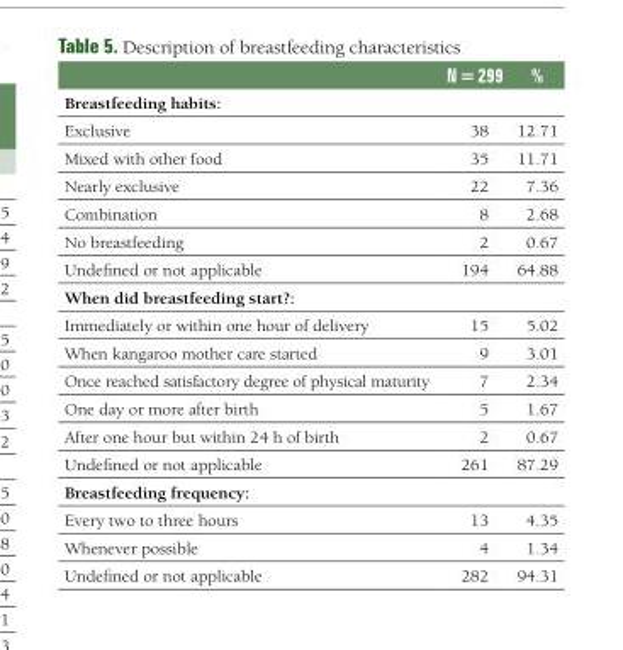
<table><thead><tr><td></td><td>N = 299</td><td>%</td></tr></thead><tbody><tr><td colspan="3">Breastfeeding habits:</td></tr><tr><td>Exclusive</td><td>38</td><td>12.71</td></tr><tr><td>Mixed with other food</td><td>35</td><td>11.71</td></tr><tr><td>Nearly exclusive</td><td>22</td><td>7.36</td></tr><tr><td>Combination</td><td>8</td><td>2.68</td></tr><tr><td>No breastfeeding</td><td>2</td><td>0.67</td></tr><tr><td>Undefined or not applicable</td><td>194</td><td>64.88</td></tr><tr><td colspan="3">When did breastfeeding start?:</td></tr><tr><td>Immediately or within one hour of delivery</td><td>15</td><td>5.02</td></tr><tr><td>When kangaroo mother care started</td><td>9</td><td>3.01</td></tr><tr><td>Once reached satisfactory degree of physical maturity</td><td>7</td><td>2.34</td></tr><tr><td>One day or more after birth</td><td>5</td><td>1.67</td></tr><tr><td>After one hour but within 24 h of birth</td><td>2</td><td>0.67</td></tr><tr><td>Undefined or not applicable</td><td>261</td><td>87.29</td></tr><tr><td colspan="3">Breastfeeding frequency:</td></tr><tr><td>Every two to three hours</td><td>13</td><td>4.35</td></tr><tr><td>Whenever possible</td><td>4</td><td>1.34</td></tr><tr><td>Undefined or not applicable</td><td>282</td><td>94.31</td></tr></tbody></table>